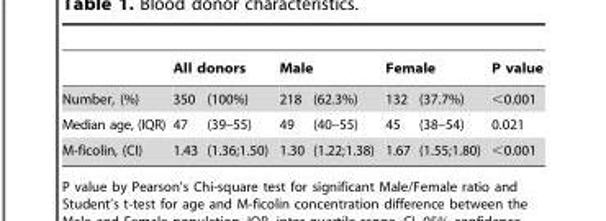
<table><thead><tr><td rowspan="2">Number, (%)</td><td colspan="2">All donors</td><td colspan="2">Male</td><td colspan="2">Female</td><td rowspan="2">P value &lt;0.001</td></tr><tr><td>350</td><td>(100%)</td><td>218</td><td>(62.3%)</td><td>132</td><td>(37.7%)</td></tr></thead><tbody><tr><td>Median age, (IQR)</td><td>47</td><td>(39–55)</td><td>49</td><td>(40–55)</td><td>45</td><td>(38–54)</td><td>0.021</td></tr><tr><td>M-ficolin, (CI)</td><td>1.43</td><td>(1.36;1.50)</td><td>1.30</td><td>(1.22;1.38)</td><td>1.67</td><td>(1.55;1.80)</td><td>&lt;0.001</td></tr></tbody></table>